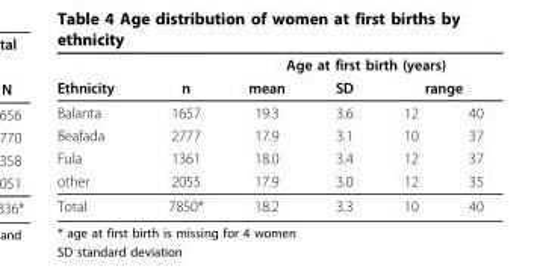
<table><thead><tr><td rowspan="3">Ethnicity Balanta</td><td rowspan="3">n 1657</td><td colspan="4">Age at first birth (years)</td></tr><tr><td rowspan="2">mean 19.3</td><td rowspan="2">SD 3.6</td><td colspan="2">range</td></tr><tr><td>12</td><td>40</td></tr></thead><tbody><tr><td>Beafada</td><td>2777</td><td>17.9</td><td>3.1</td><td>10</td><td>37</td></tr><tr><td>Fula</td><td>1361</td><td>18.0</td><td>3.4</td><td>12</td><td>37</td></tr><tr><td>other</td><td>2055</td><td>17.9</td><td>3.0</td><td>12</td><td>35</td></tr><tr><td>Total</td><td>7850*</td><td>18.2</td><td>3.3</td><td>10</td><td>40</td></tr></tbody></table>